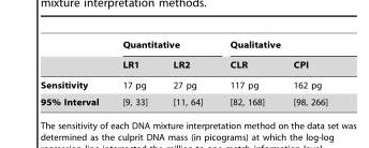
<table><thead><tr><td rowspan="2"></td><td colspan="2">Quantitative</td><td colspan="2">Qualitative</td></tr><tr><td>LR1</td><td>LR2</td><td>CLR</td><td>CPI</td></tr></thead><tbody><tr><td>Sensitivity</td><td>17 pg</td><td>27 pg</td><td>117 pg</td><td>162 pg</td></tr><tr><td>95% Interval</td><td>[9, 33]</td><td>[11, 64]</td><td>[82, 168]</td><td>[98, 266]</td></tr></tbody></table>